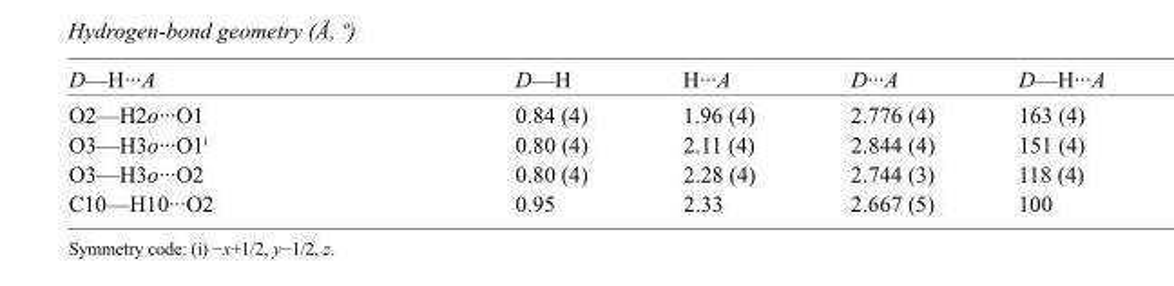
<table><tbody><tr><td>D—H···A</td><td>D—H</td><td>H···A</td><td>D···A</td><td>D—H···A</td></tr><tr><td>O2—H2o···O1</td><td>0.84 (4)</td><td>1.96 (4)</td><td>2.776 (4)</td><td>163 (4)</td></tr><tr><td>O3—H3o···O1<sup>i</sup></td><td>0.80 (4)</td><td>2.11 (4)</td><td>2.844 (4)</td><td>151 (4)</td></tr><tr><td>O3—H3o···O2</td><td>0.80 (4)</td><td>2.28 (4)</td><td>2.744 (3)</td><td>118 (4)</td></tr><tr><td>C10—H10···O2</td><td>0.95</td><td>2.33</td><td>2.667 (5)</td><td>100</td></tr></tbody></table>